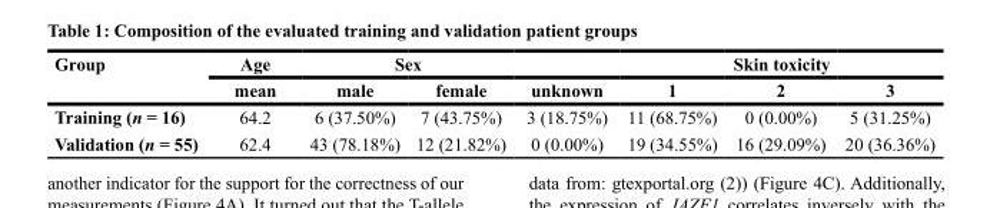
<table><thead><tr><td rowspan="2">Group</td><td rowspan="2">Age mean</td><td colspan="2">Sex</td><td rowspan="2">unknown</td><td colspan="3">Skin toxicity</td></tr><tr><td>male</td><td>female</td><td>1</td><td>2</td><td>3</td></tr></thead><tbody><tr><td>Training (n = 16)</td><td>64.2</td><td>6 (37.50%)</td><td>7 (43.75%)</td><td>3 (18.75%)</td><td>11 (68.75%)</td><td>0 (0.00%)</td><td>5 (31.25%)</td></tr><tr><td>Validation (n = 55)</td><td>62.4</td><td>43 (78.18%)</td><td>12 (21.82%)</td><td>0 (0.00%)</td><td>19 (34.55%)</td><td>16 (29.09%)</td><td>20 (36.36%)</td></tr></tbody></table>